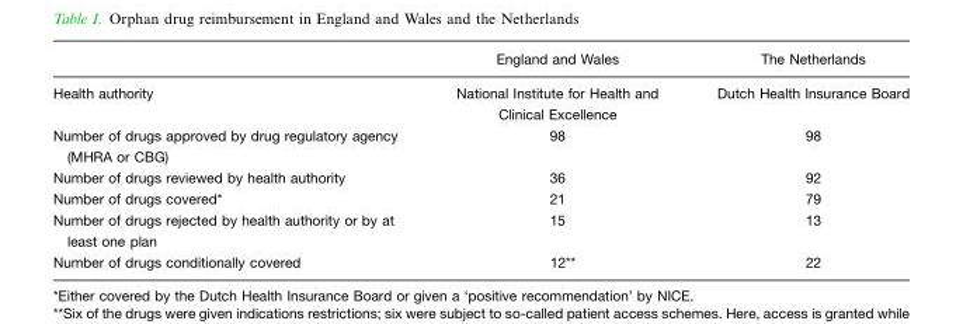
<table><thead><tr><td></td><td>England and Wales</td><td>The Netherlands</td></tr></thead><tbody><tr><td>Health authority</td><td>National Institute for Health and Clinical Excellence</td><td>Dutch Health Insurance Board</td></tr><tr><td>Number of drugs approved by drug regulatory agency (MHRA or CBG)</td><td>98</td><td>98</td></tr><tr><td>Number of drugs reviewed by health authority</td><td>36</td><td>92</td></tr><tr><td>Number of drugs covered*</td><td>21</td><td>79</td></tr><tr><td>Number of drugs rejected by health authority or by at least one plan</td><td>15</td><td>13</td></tr><tr><td>Number of drugs conditionally covered</td><td>12**</td><td>22</td></tr></tbody></table>